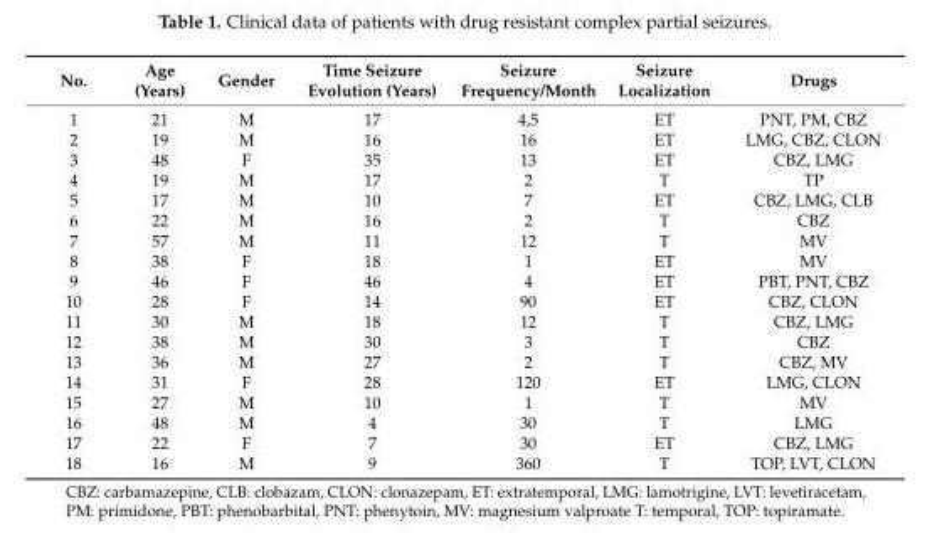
<table><thead><tr><td>No.</td><td>Age (Years)</td><td>Gender</td><td>Time Seizure Evolution (Years)</td><td>Seizure Frequency/Month</td><td>Seizure Localization</td><td>Drugs</td></tr></thead><tbody><tr><td>1</td><td>21</td><td>M</td><td>17</td><td>4,5</td><td>ET</td><td>PNT, PM, CBZ</td></tr><tr><td>2</td><td>19</td><td>M</td><td>16</td><td>16</td><td>ET</td><td>LMG, CBZ, CLON</td></tr><tr><td>3</td><td>48</td><td>F</td><td>35</td><td>13</td><td>ET</td><td>CBZ, LMG</td></tr><tr><td>4</td><td>19</td><td>M</td><td>17</td><td>2</td><td>T</td><td>TP</td></tr><tr><td>5</td><td>17</td><td>M</td><td>10</td><td>7</td><td>ET</td><td>CBZ, LMG, CLB</td></tr><tr><td>6</td><td>22</td><td>M</td><td>16</td><td>2</td><td>T</td><td>CBZ</td></tr><tr><td>7</td><td>57</td><td>M</td><td>11</td><td>12</td><td>T</td><td>MV</td></tr><tr><td>8</td><td>38</td><td>F</td><td>18</td><td>1</td><td>ET</td><td>MV</td></tr><tr><td>9</td><td>46</td><td>F</td><td>46</td><td>4</td><td>ET</td><td>PBT, PNT, CBZ</td></tr><tr><td>10</td><td>28</td><td>F</td><td>14</td><td>90</td><td>ET</td><td>CBZ, CLON</td></tr><tr><td>11</td><td>30</td><td>M</td><td>18</td><td>12</td><td>T</td><td>CBZ, LMG</td></tr><tr><td>12</td><td>38</td><td>M</td><td>30</td><td>3</td><td>T</td><td>CBZ</td></tr><tr><td>13</td><td>36</td><td>M</td><td>27</td><td>2</td><td>T</td><td>CBZ, MV</td></tr><tr><td>14</td><td>31</td><td>F</td><td>28</td><td>120</td><td>ET</td><td>LMG, CLON</td></tr><tr><td>15</td><td>27</td><td>M</td><td>10</td><td>1</td><td>T</td><td>MV</td></tr><tr><td>16</td><td>48</td><td>M</td><td>4</td><td>30</td><td>T</td><td>LMG</td></tr><tr><td>17</td><td>22</td><td>F</td><td>7</td><td>30</td><td>ET</td><td>CBZ, LMG</td></tr><tr><td>18</td><td>16</td><td>M</td><td>9</td><td>360</td><td>T</td><td>TOP, LVT, CLON</td></tr></tbody></table>